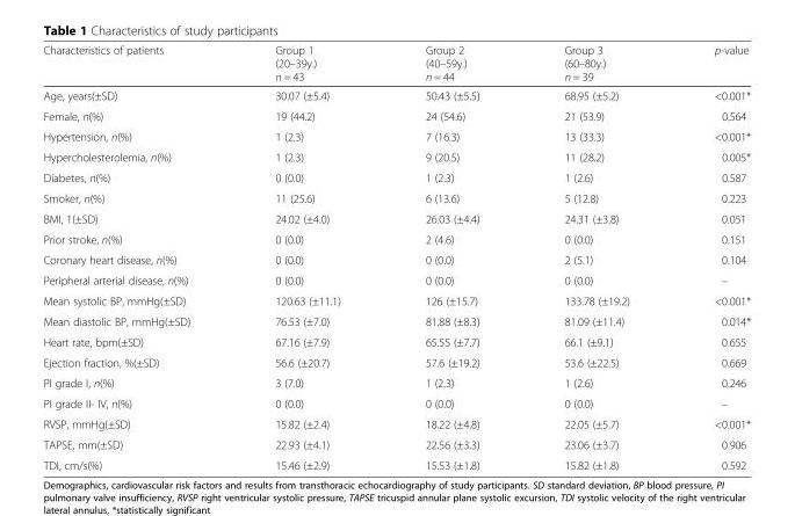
<table><thead><tr><td>Characteristics of patients</td><td>Group 1 (20–39y.) n = 43</td><td>Group 2 (40–59y.) n = 44</td><td>Group 3 (60–80y.) n = 39</td><td>p-value</td></tr></thead><tbody><tr><td>Age, years(±SD)</td><td>30.07 (±5.4)</td><td>50.43 (±5.5)</td><td>68.95 (±5.2)</td><td>&lt;0.001*</td></tr><tr><td>Female, n(%)</td><td>19 (44.2)</td><td>24 (54.6)</td><td>21 (53.9)</td><td>0.564</td></tr><tr><td>Hypertension, n(%)</td><td>1 (2.3)</td><td>7 (16.3)</td><td>13 (33.3)</td><td>&lt;0.001*</td></tr><tr><td>Hypercholesterolemia, n(%)</td><td>1 (2.3)</td><td>9 (20.5)</td><td>11 (28.2)</td><td>0.005*</td></tr><tr><td>Diabetes, n(%)</td><td>0 (0.0)</td><td>1 (2.3)</td><td>1 (2.6)</td><td>0.587</td></tr><tr><td>Smoker, n(%)</td><td>11 (25.6)</td><td>6 (13.6)</td><td>5 (12.8)</td><td>0.223</td></tr><tr><td>BMI, 1(±SD)</td><td>24.02 (±4.0)</td><td>26.03 (±4.4)</td><td>24.31 (±3.8)</td><td>0.051</td></tr><tr><td>Prior stroke, n(%)</td><td>0 (0.0)</td><td>2 (4.6)</td><td>0 (0.0)</td><td>0.151</td></tr><tr><td>Coronary heart disease, n(%)</td><td>0 (0.0)</td><td>0 (0.0)</td><td>2 (5.1)</td><td>0.104</td></tr><tr><td>Peripheral arterial disease, n(%)</td><td>0 (0.0)</td><td>0 (0.0)</td><td>0 (0.0)</td><td>–</td></tr><tr><td>Mean systolic BP, mmHg(±SD)</td><td>120.63 (±11.1)</td><td>126 (±15.7)</td><td>133.78 (±19.2)</td><td>&lt;0.001*</td></tr><tr><td>Mean diastolic BP, mmHg(±SD)</td><td>76.53 (±7.0)</td><td>81.88 (±8.3)</td><td>81.09 (±11.4)</td><td>0.014*</td></tr><tr><td>Heart rate, bpm(±SD)</td><td>67.16 (±7.9)</td><td>65.55 (±7.7)</td><td>66.1 (±9.1)</td><td>0.655</td></tr><tr><td>Ejection fraction, %(±SD)</td><td>56.6 (±20.7)</td><td>57.6 (±19.2)</td><td>53.6 (±22.5)</td><td>0.669</td></tr><tr><td>PI grade I, n(%)</td><td>3 (7.0)</td><td>1 (2.3)</td><td>1 (2.6)</td><td>0.246</td></tr><tr><td>PI grade II- IV, n(%)</td><td>0 (0.0)</td><td>0 (0.0)</td><td>0 (0.0)</td><td>–</td></tr><tr><td>RVSP, mmHg(±SD)</td><td>15.82 (±2.4)</td><td>18.22 (±4.8)</td><td>22.05 (±5.7)</td><td>&lt;0.001*</td></tr><tr><td>TAPSE, mm(±SD)</td><td>22.93 (±4.1)</td><td>22.56 (±3.3)</td><td>23.06 (±3.7)</td><td>0.906</td></tr><tr><td>TDI, cm/s(%)</td><td>15.46 (±2.9)</td><td>15.53 (±1.8)</td><td>15.82 (±1.8)</td><td>0.592</td></tr></tbody></table>